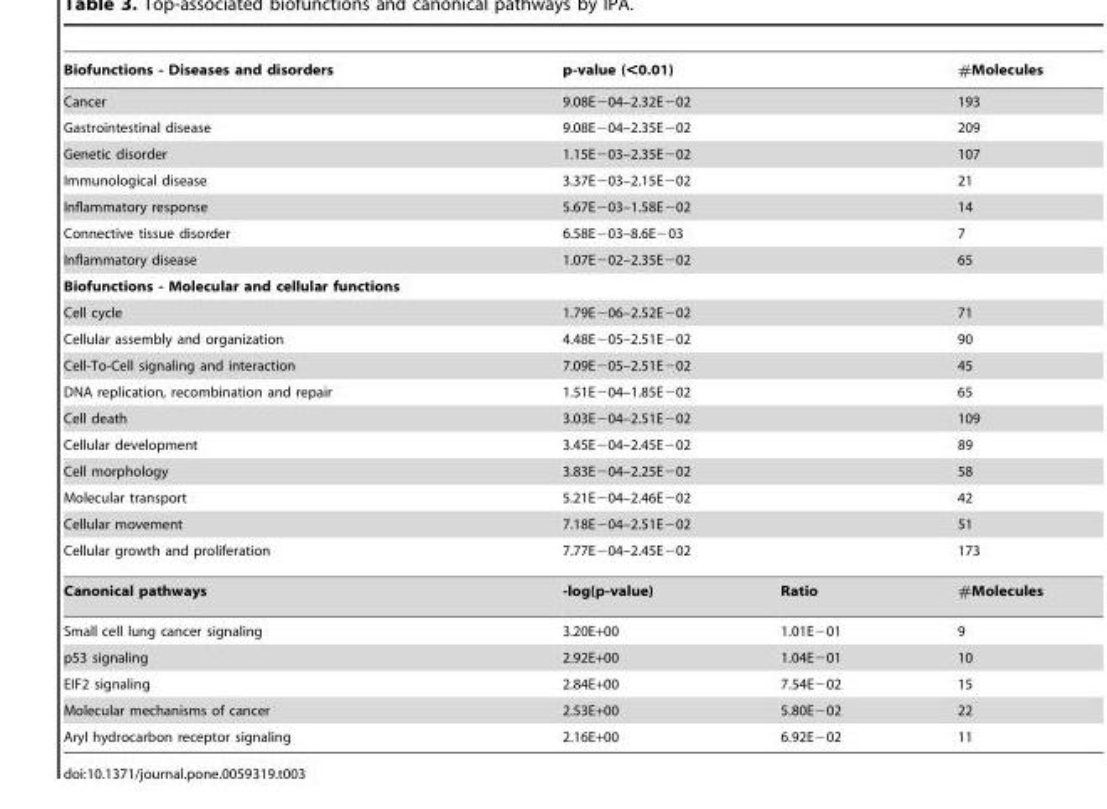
<table><thead><tr><td>Biofunctions - Diseases and disorders</td><td colspan="2">p-value (&lt;0.01)</td><td>#Molecules</td></tr></thead><tbody><tr><td>Cancer</td><td colspan="2">9.08E−04–2.32E−02</td><td>193</td></tr><tr><td>Gastrointestinal disease</td><td colspan="2">9.08E−04–2.35E−02</td><td>209</td></tr><tr><td>Genetic disorder</td><td colspan="2">1.15E−03–2.35E−02</td><td>107</td></tr><tr><td>Immunological disease</td><td colspan="2">3.37E−03–2.15E−02</td><td>21</td></tr><tr><td>Inflammatory response</td><td colspan="2">5.67E−03–1.58E−02</td><td>14</td></tr><tr><td>Connective tissue disorder</td><td colspan="2">6.58E−03–8.6E−03</td><td>7</td></tr><tr><td>Inflammatory disease</td><td colspan="2">1.07E−02–2.35E−02</td><td>65</td></tr><tr><td colspan="4">Biofunctions - Molecular and cellular functions</td></tr><tr><td>Cell cycle</td><td colspan="2">1.79E−06–2.52E−02</td><td>71</td></tr><tr><td>Cellular assembly and organization</td><td colspan="2">4.48E−05–2.51E−02</td><td>90</td></tr><tr><td>Cell-To-Cell signaling and interaction</td><td colspan="2">7.09E−05–2.51E−02</td><td>45</td></tr><tr><td>DNA replication, recombination and repair</td><td colspan="2">1.51E−04–1.85E−02</td><td>65</td></tr><tr><td>Cell death</td><td colspan="2">3.03E−04–2.51E−02</td><td>109</td></tr><tr><td>Cellular development</td><td colspan="2">3.45E−04–2.45E−02</td><td>89</td></tr><tr><td>Cell morphology</td><td colspan="2">3.83E−04–2.25E−02</td><td>58</td></tr><tr><td>Molecular transport</td><td colspan="2">5.21E−04–2.46E−02</td><td>42</td></tr><tr><td>Cellular movement</td><td colspan="2">7.18E−04–2.51E−02</td><td>51</td></tr><tr><td>Cellular growth and proliferation</td><td colspan="2">7.77E−04–2.45E−02</td><td>173</td></tr><tr><td>Canonical pathways</td><td>-log(p-value)</td><td>Ratio</td><td>#Molecules</td></tr><tr><td>Small cell lung cancer signaling</td><td>3.20E+00</td><td>1.01E−01</td><td>9</td></tr><tr><td>p53 signaling</td><td>2.92E+00</td><td>1.04E−01</td><td>10</td></tr><tr><td>EIF2 signaling</td><td>2.84E+00</td><td>7.54E−02</td><td>15</td></tr><tr><td>Molecular mechanisms of cancer</td><td>2.53E+00</td><td>5.80E−02</td><td>22</td></tr><tr><td>Aryl hydrocarbon receptor signaling</td><td>2.16E+00</td><td>6.92E−02</td><td>11</td></tr></tbody></table>